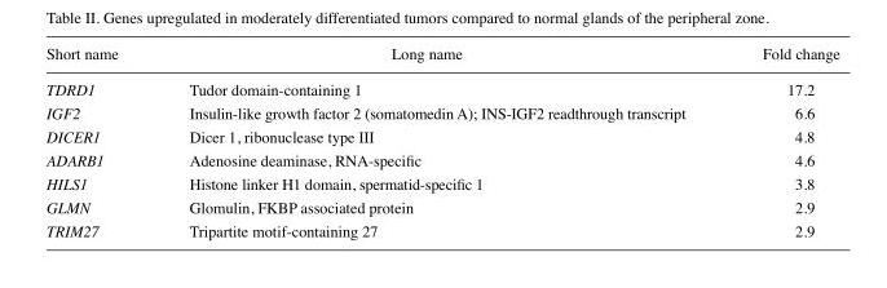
<table><thead><tr><td>Short name</td><td>Long name</td><td>Fold change</td></tr></thead><tbody><tr><td>TDRD1</td><td>Tudor domain-containing 1</td><td>17.2</td></tr><tr><td>IGF2</td><td>Insulin-like growth factor 2 (somatomedin A); INS-IGF2 readthrough transcript</td><td>6.6</td></tr><tr><td>DICER1</td><td>Dicer 1, ribonuclease type III</td><td>4.8</td></tr><tr><td>ADARB1</td><td>Adenosine deaminase, RNA-specific</td><td>4.6</td></tr><tr><td>HILS1</td><td>Histone linker H1 domain, spermatid-specific 1</td><td>3.8</td></tr><tr><td>GLMN</td><td>Glomulin, FKBP associated protein</td><td>2.9</td></tr><tr><td>TRIM27</td><td>Tripartite motif-containing 27</td><td>2.9</td></tr></tbody></table>